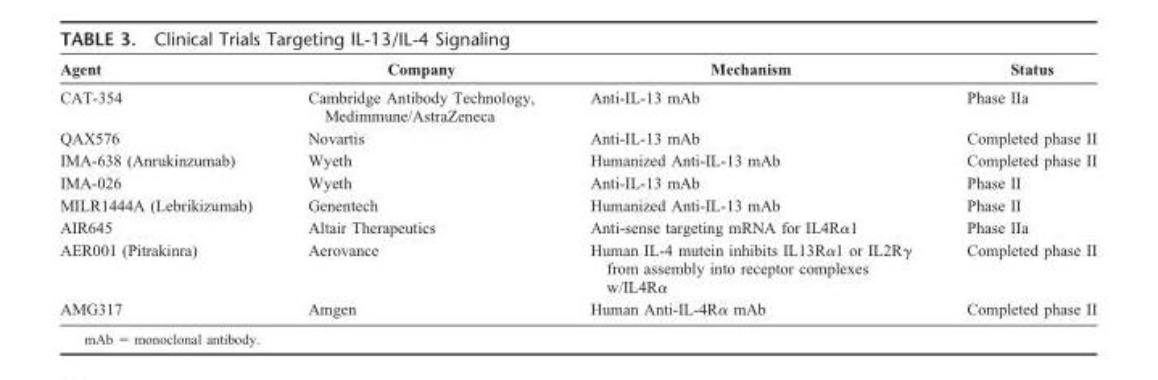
<table><thead><tr><td>Agent</td><td>Company</td><td>Mechanism</td><td>Status</td></tr></thead><tbody><tr><td>CAT-354</td><td>Cambridge Antibody Technology, Medimmune/AstraZeneca</td><td>Anti-IL-13 mAb</td><td>Phase IIa</td></tr><tr><td>QAX576</td><td>Novartis</td><td>Anti-IL-13 mAb</td><td>Completed phase II</td></tr><tr><td>IMA-638 (Anrukinzumab)</td><td>Wyeth</td><td>Humanized Anti-IL-13 mAb</td><td>Completed phase II</td></tr><tr><td>IMA-026</td><td>Wyeth</td><td>Anti-IL-13 mAb</td><td>Phase II</td></tr><tr><td>MILR1444A (Lebrikizumab)</td><td>Genentech</td><td>Humanized Anti-IL-13 mAb</td><td>Phase II</td></tr><tr><td>AIR645</td><td>Altair Therapeutics</td><td>Anti-sense targeting mRNA for IL4Rα1</td><td>Phase IIa</td></tr><tr><td>AER001 (Pitrakinra)</td><td>Aerovance</td><td>Human IL-4 mutein inhibits IL13R�1 or IL2R� from assembly into receptor complexes w/IL4R�</td><td>Completed phase II</td></tr><tr><td>AMG317</td><td>Amgen</td><td>Human Anti-IL-4Rα mAb</td><td>Completed phase II</td></tr></tbody></table>